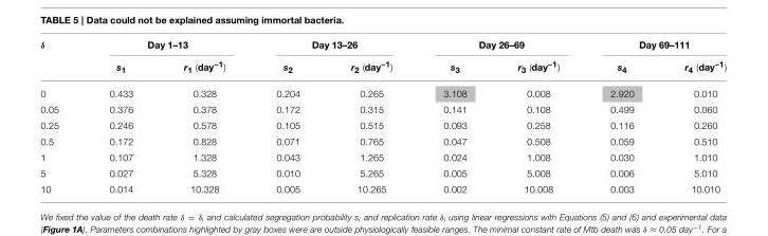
<table><thead><tr><td rowspan="2">δ</td><td colspan="2">Day 1–13</td><td colspan="2">Day 13–26</td><td colspan="2">Day 26–69</td><td colspan="2">Day 69–111</td></tr><tr><td>s<sub>1</sub></td><td>r<sub>1</sub> (day<sup>−1</sup>)</td><td>s<sub>2</sub></td><td>r<sub>2</sub> (day<sup>−1</sup>)</td><td>s<sub>3</sub></td><td>r<sub>3</sub> (day<sup>−1</sup>)</td><td>s<sub>4</sub></td><td>r<sub>4</sub> (day<sup>−1</sup>)</td></tr></thead><tbody><tr><td>0</td><td>0.433</td><td>0.328</td><td>0.204</td><td>0.265</td><td>3.108</td><td>0.008</td><td>2.920</td><td>0.010</td></tr><tr><td>0.05</td><td>0.376</td><td>0.378</td><td>0.172</td><td>0.315</td><td>0.141</td><td>0.108</td><td>0.499</td><td>0.060</td></tr><tr><td>0.25</td><td>0.246</td><td>0.578</td><td>0.105</td><td>0.515</td><td>0.093</td><td>0.258</td><td>0.116</td><td>0.260</td></tr><tr><td>0.5</td><td>0.172</td><td>0.828</td><td>0.071</td><td>0.765</td><td>0.047</td><td>0.508</td><td>0.059</td><td>0.510</td></tr><tr><td>1</td><td>0.107</td><td>1.328</td><td>0.043</td><td>1.265</td><td>0.024</td><td>1.008</td><td>0.030</td><td>1.010</td></tr><tr><td>5</td><td>0.027</td><td>5.328</td><td>0.010</td><td>5.265</td><td>0.005</td><td>5.008</td><td>0.006</td><td>5.010</td></tr><tr><td>10</td><td>0.014</td><td>10.328</td><td>0.005</td><td>10.265</td><td>0.002</td><td>10.008</td><td>0.003</td><td>10.010</td></tr></tbody></table>